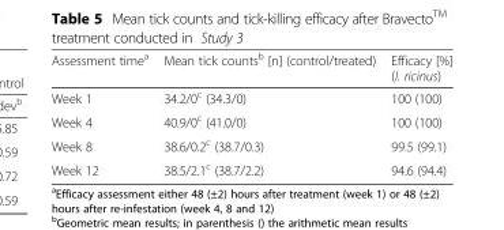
<table><thead><tr><td>Assessment time<sup>a</sup></td><td>Mean tick counts<sup>b</sup> [n] (control/treated)</td><td>Efficacy [%] (I. ricinus)</td></tr></thead><tbody><tr><td>Week 1</td><td>34.2/0<sup>c</sup> (34.3/0)</td><td>100 (100)</td></tr><tr><td>Week 4</td><td>40.9/0<sup>c</sup> (41.0/0)</td><td>100 (100)</td></tr><tr><td>Week 8</td><td>38.6/0.2<sup>c</sup> (38.7/0.3)</td><td>99.5 (99.1)</td></tr><tr><td>Week 12</td><td>38.5/2.1<sup>c</sup> (38.7/2.2)</td><td>94.6 (94.4)</td></tr></tbody></table>